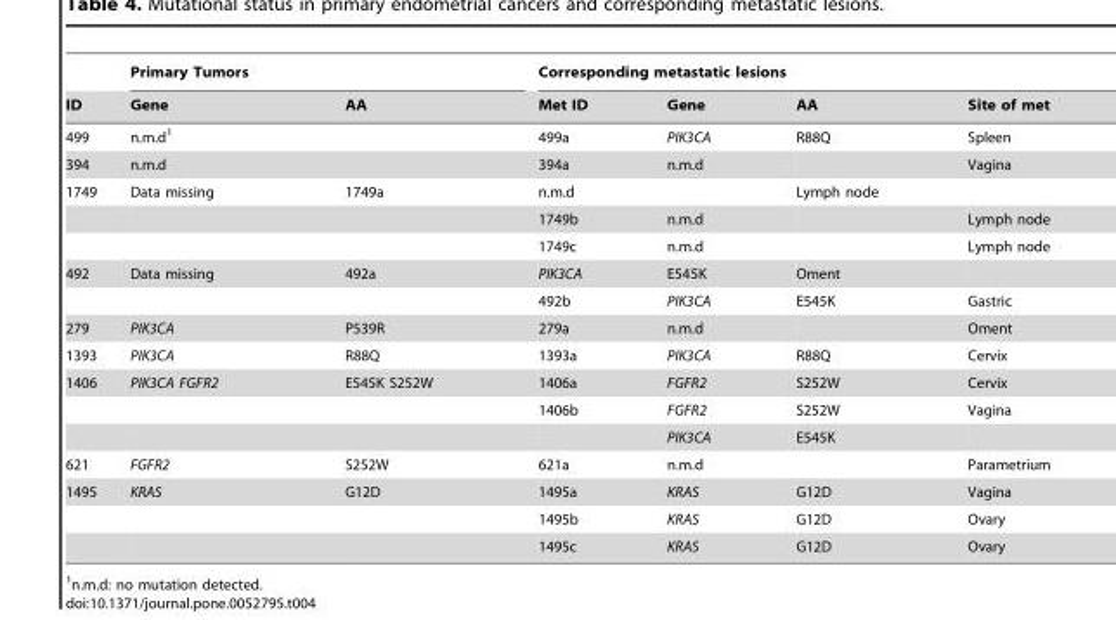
<table><thead><tr><td rowspan="2">ID</td><td colspan="2">Primary Tumors</td><td colspan="4">Corresponding metastatic lesions</td></tr><tr><td>Gene</td><td>AA</td><td>Met ID</td><td>Gene</td><td>AA</td><td>Site of met</td></tr></thead><tbody><tr><td>499</td><td>n.m.d<sup>1</sup></td><td></td><td>499a</td><td>PIK3CA</td><td>R88Q</td><td>Spleen</td></tr><tr><td>394</td><td>n.m.d</td><td></td><td>394a</td><td>n.m.d</td><td></td><td>Vagina</td></tr><tr><td rowspan="3">1749</td><td>Data missing</td><td>1749a</td><td>n.m.d</td><td></td><td>Lymph node</td><td></td></tr><tr><td></td><td></td><td>1749b</td><td>n.m.d</td><td></td><td>Lymph node</td></tr><tr><td></td><td></td><td>1749c</td><td>n.m.d</td><td></td><td>Lymph node</td></tr><tr><td rowspan="2">492</td><td>Data missing</td><td>492a</td><td>PIK3CA</td><td>E545K</td><td>Oment</td><td></td></tr><tr><td></td><td></td><td>492b</td><td>PIK3CA</td><td>E545K</td><td>Gastric</td></tr><tr><td>279</td><td>PIK3CA</td><td>P539R</td><td>279a</td><td>n.m.d</td><td></td><td>Oment</td></tr><tr><td>1393</td><td>PIK3CA</td><td>R88Q</td><td>1393a</td><td>PIK3CA</td><td>R88Q</td><td>Cervix</td></tr><tr><td rowspan="3">1406</td><td>PIK3CA FGFR2</td><td>E545K S252W</td><td>1406a</td><td>FGFR2</td><td>S252W</td><td>Cervix</td></tr><tr><td></td><td></td><td>1406b</td><td>FGFR2</td><td>S252W</td><td>Vagina</td></tr><tr><td></td><td></td><td></td><td>PIK3CA</td><td>E545K</td><td></td></tr><tr><td>621</td><td>FGFR2</td><td>S252W</td><td>621a</td><td>n.m.d</td><td></td><td>Parametrium</td></tr><tr><td rowspan="3">1495</td><td>KRAS</td><td>G12D</td><td>1495a</td><td>KRAS</td><td>G12D</td><td>Vagina</td></tr><tr><td></td><td></td><td>1495b</td><td>KRAS</td><td>G12D</td><td>Ovary</td></tr><tr><td></td><td></td><td>1495c</td><td>KRAS</td><td>G12D</td><td>Ovary</td></tr></tbody></table>